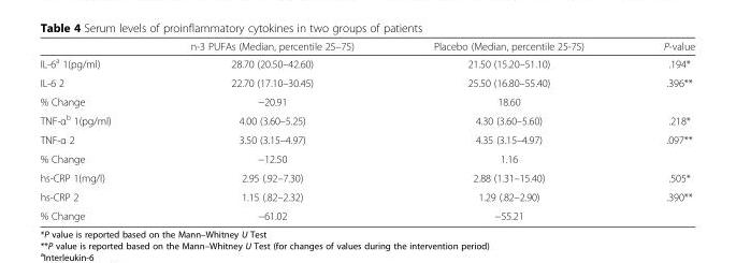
<table><thead><tr><td></td><td>n-3 PUFAs (Median, percentile 25–75)</td><td>Placebo (Median, percentile 25-75)</td><td>P-value</td></tr></thead><tbody><tr><td>IL-6<sup>a</sup> 1(pg/ml)</td><td>28.70 (20.50–42.60)</td><td>21.50 (15.20–51.10)</td><td>.194*</td></tr><tr><td>IL-6 2</td><td>22.70 (17.10–30.45)</td><td>25.50 (16.80–55.40)</td><td>.396**</td></tr><tr><td>% Change</td><td>−20.91</td><td>18.60</td><td></td></tr><tr><td>TNF-α<sup>b</sup> 1(pg/ml)</td><td>4.00 (3.60–5.25)</td><td>4.30 (3.60–5.60)</td><td>.218*</td></tr><tr><td>TNF-α 2</td><td>3.50 (3.15–4.97)</td><td>4.35 (3.15–4.97)</td><td>.097**</td></tr><tr><td>% Change</td><td>−12.50</td><td>1.16</td><td></td></tr><tr><td>hs-CRP 1(mg/l)</td><td>2.95 (.92–7.30)</td><td>2.88 (1.31–15.40)</td><td>.505*</td></tr><tr><td>hs-CRP 2</td><td>1.15 (.82–2.32)</td><td>1.29 (.82–2.90)</td><td>.390**</td></tr><tr><td>% Change</td><td>−61.02</td><td>−55.21</td><td></td></tr></tbody></table>